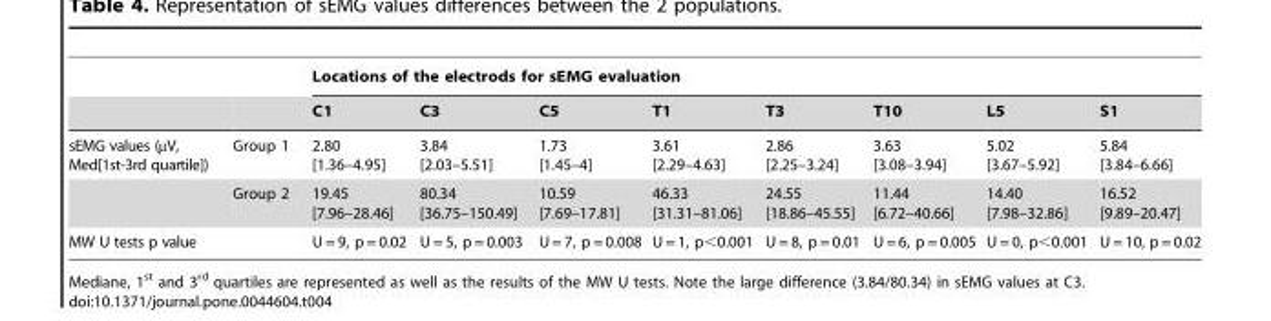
<table><thead><tr><td rowspan="2"></td><td rowspan="2"></td><td colspan="8">Locations of the electrods for sEMG evaluation</td></tr><tr><td>C1</td><td>C3</td><td>C5</td><td>T1</td><td>T3</td><td>T10</td><td>L5</td><td>S1</td></tr></thead><tbody><tr><td rowspan="2">sEMG values (µV, Med[1st-3rd quartile])</td><td>Group 1</td><td>2.80 [1.36–4.95]</td><td>3.84 [2.03–5.51]</td><td>1.73 [1.45–4]</td><td>3.61 [2.29–4.63]</td><td>2.86 [2.25–3.24]</td><td>3.63 [3.08–3.94]</td><td>5.02 [3.67–5.92]</td><td>5.84 [3.84–6.66]</td></tr><tr><td>Group 2</td><td>19.45 [7.96–28.46]</td><td>80.34 [36.75–150.49]</td><td>10.59 [7.69–17.81]</td><td>46.33 [31.31–81.06]</td><td>24.55 [18.86–45.55]</td><td>11.44 [6.72–40.66]</td><td>14.40 [7.98–32.86]</td><td>16.52 [9.89–20.47]</td></tr><tr><td colspan="2">MW U tests p value</td><td>U = 9, p = 0.02</td><td>U = 5, p = 0.003</td><td>U = 7, p = 0.008</td><td>U = 1, p&lt;0.001</td><td>U = 8, p = 0.01</td><td>U = 6, p = 0.005</td><td>U = 0, p&lt;0.001</td><td>U = 10, p = 0.02</td></tr></tbody></table>